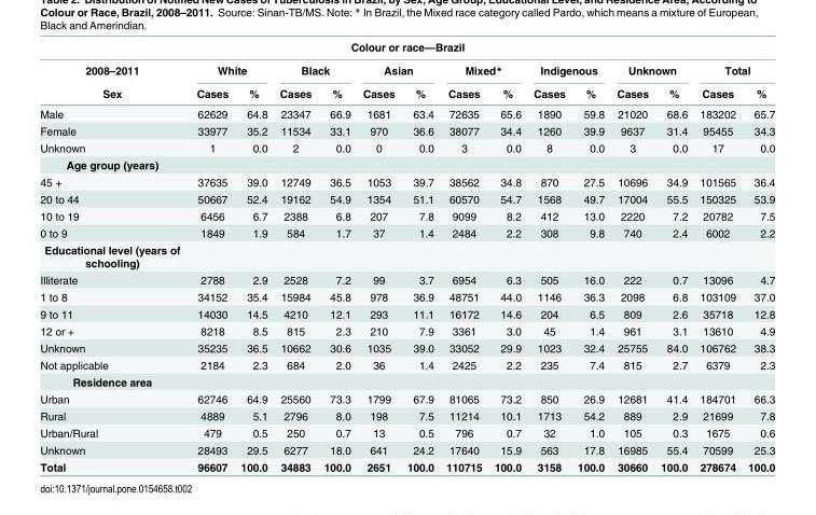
<table><thead><tr><td colspan="15">Colour or race—Brazil</td></tr><tr><td rowspan="2">2008–2011 Sex</td><td colspan="2">White</td><td colspan="2">Black</td><td colspan="2">Asian</td><td colspan="2">Mixed*</td><td colspan="2">Indigenous</td><td colspan="2">Unknown</td><td colspan="2">Total</td></tr><tr><td>Cases</td><td>%</td><td>Cases</td><td>%</td><td>Cases</td><td>%</td><td>Cases</td><td>%</td><td>Cases</td><td>%</td><td>Cases</td><td>%</td><td>Cases</td><td>%</td></tr></thead><tbody><tr><td>Male</td><td>62629</td><td>64.8</td><td>23347</td><td>66.9</td><td>1681</td><td>63.4</td><td>72635</td><td>65.6</td><td>1890</td><td>59.8</td><td>21020</td><td>68.6</td><td>183202</td><td>65.7</td></tr><tr><td>Female</td><td>33977</td><td>35.2</td><td>11534</td><td>33.1</td><td>970</td><td>36.6</td><td>38077</td><td>34.4</td><td>1260</td><td>39.9</td><td>9637</td><td>31.4</td><td>95455</td><td>34.3</td></tr><tr><td>Unknown</td><td>1</td><td>0.0</td><td>2</td><td>0.0</td><td>0</td><td>0.0</td><td>3</td><td>0.0</td><td>8</td><td>0.0</td><td>3</td><td>0.0</td><td>17</td><td>0.0</td></tr><tr><td colspan="15">Age group (years)</td></tr><tr><td>45 +</td><td>37635</td><td>39.0</td><td>12749</td><td>36.5</td><td>1053</td><td>39.7</td><td>38562</td><td>34.8</td><td>870</td><td>27.5</td><td>10696</td><td>34.9</td><td>101565</td><td>36.4</td></tr><tr><td>20 to 44</td><td>50667</td><td>52.4</td><td>19162</td><td>54.9</td><td>1354</td><td>51.1</td><td>60570</td><td>54.7</td><td>1568</td><td>49.7</td><td>17004</td><td>55.5</td><td>150325</td><td>53.9</td></tr><tr><td>10 to 19</td><td>6456</td><td>6.7</td><td>2388</td><td>6.8</td><td>207</td><td>7.8</td><td>9099</td><td>8.2</td><td>412</td><td>13.0</td><td>2220</td><td>7.2</td><td>20782</td><td>7.5</td></tr><tr><td>0 to 9</td><td>1849</td><td>1.9</td><td>584</td><td>1.7</td><td>37</td><td>1.4</td><td>2484</td><td>2.2</td><td>308</td><td>9.8</td><td>740</td><td>2.4</td><td>6002</td><td>2.2</td></tr><tr><td colspan="15">Educational level (years of schooling)</td></tr><tr><td>Illiterate</td><td>2788</td><td>2.9</td><td>2528</td><td>7.2</td><td>99</td><td>3.7</td><td>6954</td><td>6.3</td><td>505</td><td>16.0</td><td>222</td><td>0.7</td><td>13096</td><td>4.7</td></tr><tr><td>1 to 8</td><td>34152</td><td>35.4</td><td>15984</td><td>45.8</td><td>978</td><td>36.9</td><td>48751</td><td>44.0</td><td>1146</td><td>36.3</td><td>2098</td><td>6.8</td><td>103109</td><td>37.0</td></tr><tr><td>9 to 11</td><td>14030</td><td>14.5</td><td>4210</td><td>12.1</td><td>293</td><td>11.1</td><td>16172</td><td>14.6</td><td>204</td><td>6.5</td><td>809</td><td>2.6</td><td>35718</td><td>12.8</td></tr><tr><td>12 or +</td><td>8218</td><td>8.5</td><td>815</td><td>2.3</td><td>210</td><td>7.9</td><td>3361</td><td>3.0</td><td>45</td><td>1.4</td><td>961</td><td>3.1</td><td>13610</td><td>4.9</td></tr><tr><td>Unknown</td><td>35235</td><td>36.5</td><td>10662</td><td>30.6</td><td>1035</td><td>39.0</td><td>33052</td><td>29.9</td><td>1023</td><td>32.4</td><td>25755</td><td>84.0</td><td>106762</td><td>38.3</td></tr><tr><td>Not applicable</td><td>2184</td><td>2.3</td><td>684</td><td>2.0</td><td>36</td><td>1.4</td><td>2425</td><td>2.2</td><td>235</td><td>7.4</td><td>815</td><td>2.7</td><td>6379</td><td>2.3</td></tr><tr><td colspan="15">Residence area</td></tr><tr><td>Urban</td><td>62746</td><td>64.9</td><td>25560</td><td>73.3</td><td>1799</td><td>67.9</td><td>81065</td><td>73.2</td><td>850</td><td>26.9</td><td>12681</td><td>41.4</td><td>184701</td><td>66.3</td></tr><tr><td>Rural</td><td>4889</td><td>5.1</td><td>2796</td><td>8.0</td><td>198</td><td>7.5</td><td>11214</td><td>10.1</td><td>1713</td><td>54.2</td><td>889</td><td>2.9</td><td>21699</td><td>7.8</td></tr><tr><td>Urban/Rural</td><td>479</td><td>0.5</td><td>250</td><td>0.7</td><td>13</td><td>0.5</td><td>796</td><td>0.7</td><td>32</td><td>1.0</td><td>105</td><td>0.3</td><td>1675</td><td>0.6</td></tr><tr><td>Unknown</td><td>28493</td><td>29.5</td><td>6277</td><td>18.0</td><td>641</td><td>24.2</td><td>17640</td><td>15.9</td><td>563</td><td>17.8</td><td>16985</td><td>55.4</td><td>70599</td><td>25.3</td></tr><tr><td>Total</td><td>96607</td><td>100.0</td><td>34883</td><td>100.0</td><td>2651</td><td>100.0</td><td>110715</td><td>100.0</td><td>3158</td><td>100.0</td><td>30660</td><td>100.0</td><td>278674</td><td>100.0</td></tr></tbody></table>